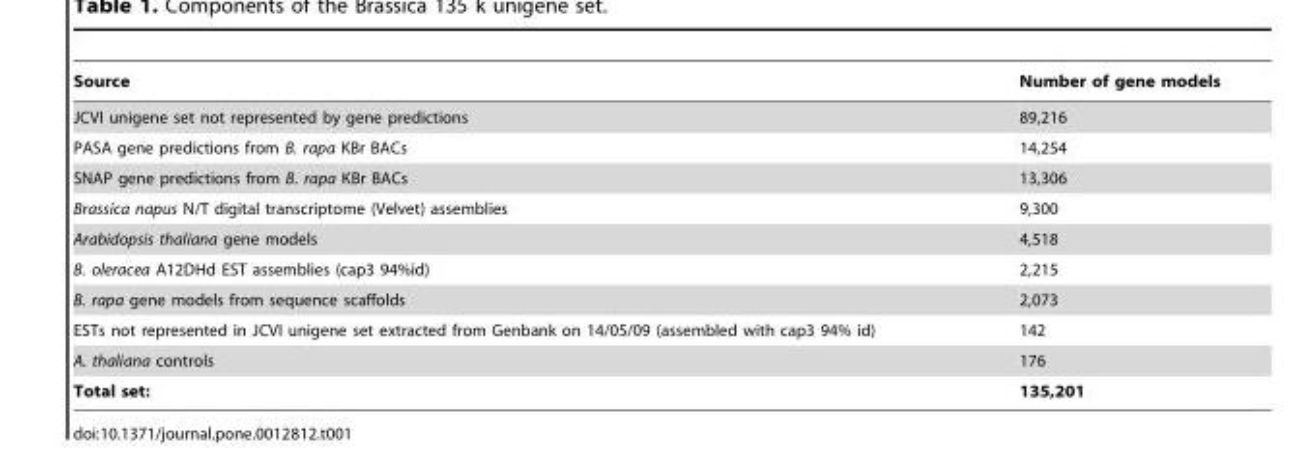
<table><thead><tr><td>Source</td><td>Number of gene models</td></tr></thead><tbody><tr><td>JCVI unigene set not represented by gene predictions</td><td>89,216</td></tr><tr><td>PASA gene predictions from B. rapa KBr BACs</td><td>14,254</td></tr><tr><td>SNAP gene predictions from B. rapa KBr BACs</td><td>13,306</td></tr><tr><td>Brassica napus N/T digital transcriptome (Velvet) assemblies</td><td>9,300</td></tr><tr><td>Arabidopsis thaliana gene models</td><td>4,518</td></tr><tr><td>B. oleracea A12DHd EST assemblies (cap3 94%id)</td><td>2,215</td></tr><tr><td>B. rapa gene models from sequence scaffolds</td><td>2,073</td></tr><tr><td>ESTs not represented in JCVI unigene set extracted from Genbank on 14/05/09 (assembled with cap3 94% id)</td><td>142</td></tr><tr><td>A. thaliana controls</td><td>176</td></tr><tr><td>Total set:</td><td>135,201</td></tr></tbody></table>